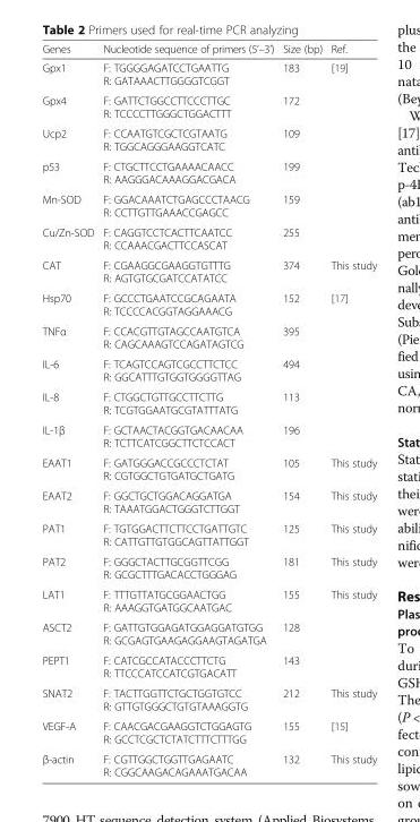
<table><thead><tr><td>Genes</td><td>Nucleotide sequence of primers (5’–3’)</td><td>Size (bp)</td><td>Ref.</td></tr></thead><tbody><tr><td>Gpx1</td><td>F: TGGGGAGATCCTGAATTG R: GATAAACTTGGGGTCGGT</td><td>183</td><td rowspan="6">[19]</td></tr><tr><td>Gpx4</td><td>F: GATTCTGGCCTTCCCTTGC R: TCCCCTTGGGCTGGACTTT</td><td>172</td></tr><tr><td>Ucp2</td><td>F: CCAATGTCGCTCGTAATG R: TGGCAGGGAAGGTCATC</td><td>109</td></tr><tr><td>p53</td><td>F: CTGCTTCCTGAAAACAACC R: AAGGGACAAAGGACGACA</td><td>199</td></tr><tr><td>Mn-SOD</td><td>F: GGACAAATCTGAGCCCTAACG R: CCTTGTTGAAACCGAGCC</td><td>159</td></tr><tr><td>Cu/Zn-SOD</td><td>F: CAGGTCCTCACTTCAATCC R: CCAAACGACTTCCASCAT</td><td>255</td></tr><tr><td>CAT</td><td>F: CGAAGGCGAAGGTGTTTG R: AGTGTGCGATCCATATCC</td><td>374</td><td>This study</td></tr><tr><td>Hsp70</td><td>F: GCCCTGAATCCGCAGAATA R: TCCCCACGGTAGGAAACG</td><td>152</td><td>[17]</td></tr><tr><td>TNFα</td><td>F: CCACGTTGTAGCCAATGTCA R: CAGCAAAGTCCAGATAGTCG</td><td>395</td><td rowspan="4"></td></tr><tr><td>IL-6</td><td>F: TCAGTCCAGTCGCCTTCTCC R: GGCATTTGTGGTGGGGTTAG</td><td>494</td></tr><tr><td>IL-8</td><td>F: CTGGCTGTTGCCTTCTTG R: TCGTGGAATGCGTATTTATG</td><td>113</td></tr><tr><td>IL-1β</td><td>F: GCTAACTACGGTGACAACAA R: TCTTCATCGGCTTCTCCACT</td><td>196</td></tr><tr><td>EAAT1</td><td>F: GATGGGACCGCCCTCTAT R: CGTGGCTGTGATGCTGATG</td><td>105</td><td>This study</td></tr><tr><td>EAAT2</td><td>F: GGCTGCTGGACAGGATGA R: TAAATGGACTGGGTCTTGGT</td><td>154</td><td>This study</td></tr><tr><td>PAT1</td><td>F: TGTGGACTTCTTCCTGATTGTC R: CATTGTTGTGGCAGTTATTGGT</td><td>125</td><td>This study</td></tr><tr><td>PAT2</td><td>F: GGGCTACTTGCGGTTCGG R: GCGCTTTGACACCTGGGAG</td><td>181</td><td>This study</td></tr><tr><td>LAT1</td><td>F: TTTGTTATGCGGAACTGG R: AAAGGTGATGGCAATGAC</td><td>155</td><td rowspan="3">This study</td></tr><tr><td>ASCT2</td><td>F: GATTGTGGAGATGGAGGATGTGG R: GCGAGTGAAGAGGAAGTAGATGA</td><td>128</td></tr><tr><td>PEPT1</td><td>F: CATCGCCATACCCTTCTG R: TTCCCATCCATCGTGACATT</td><td>143</td></tr><tr><td>SNAT2</td><td>F: TACTTGGTTCTGCTGGTGTCC R: GTTGTGGGCTGTGTAAAGGTG</td><td>212</td><td>This study</td></tr><tr><td>VEGF-A</td><td>F: CAACGACGAAGGTCTGGAGTG R: GCCTCGCTCTATCTTTCTTTGG</td><td>155</td><td>[15]</td></tr><tr><td>β-actin</td><td>F: CGTTGGCTGGTTGAGAATC R: CGGCAAGACAGAAATGACAA</td><td>132</td><td>This study</td></tr></tbody></table>